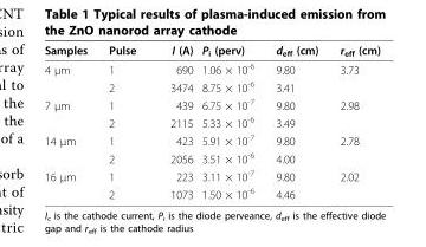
<table><thead><tr><td>Samples</td><td>Pulse</td><td>I (A)</td><td>P<sub>i</sub> (perv)</td><td>d<sub>eff</sub> (cm)</td><td>r<sub>eff</sub> (cm)</td></tr></thead><tbody><tr><td rowspan="2">4 μm</td><td>1</td><td>690</td><td>1.06 × 10<sup>-6</sup></td><td>9.80</td><td>3.73</td></tr><tr><td>2</td><td>3474</td><td>8.75 × 10<sup>-6</sup></td><td>3.41</td><td></td></tr><tr><td rowspan="2">7 μm</td><td>1</td><td>439</td><td>6.75 × 10<sup>-7</sup></td><td>9.80</td><td>2.98</td></tr><tr><td>2</td><td>2115</td><td>5.33 × 10<sup>-6</sup></td><td>3.49</td><td></td></tr><tr><td rowspan="2">14 μm</td><td>1</td><td>423</td><td>5.91 × 10<sup>-7</sup></td><td>9.80</td><td>2.78</td></tr><tr><td>2</td><td>2056</td><td>3.51 × 10<sup>-6</sup></td><td>4.00</td><td></td></tr><tr><td rowspan="2">16 μm</td><td>1</td><td>223</td><td>3.11 × 10<sup>-7</sup></td><td>9.80</td><td>2.02</td></tr><tr><td>2</td><td>1073</td><td>1.50 × 10<sup>-6</sup></td><td>4.46</td><td></td></tr></tbody></table>